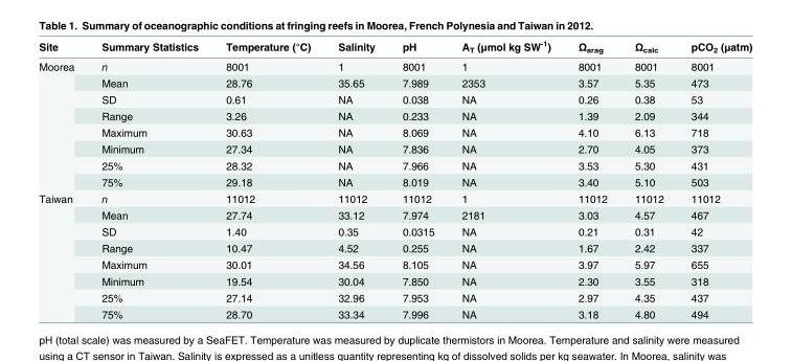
<table><thead><tr><td>Site</td><td>Summary Statistics</td><td>Temperature (°C)</td><td>Salinity</td><td>pH</td><td>A<sub>T</sub> (μmol kg SW<sup>-1</sup>)</td><td>Ω<sub>arag</sub></td><td>Ω<sub>calc</sub></td><td>pCO<sub>2</sub> (μatm)</td></tr></thead><tbody><tr><td rowspan="8">Moorea</td><td>n</td><td>8001</td><td>1</td><td>8001</td><td>1</td><td>8001</td><td>8001</td><td>8001</td></tr><tr><td>Mean</td><td>28.76</td><td>35.65</td><td>7.989</td><td>2353</td><td>3.57</td><td>5.35</td><td>473</td></tr><tr><td>SD</td><td>0.61</td><td>NA</td><td>0.038</td><td>NA</td><td>0.26</td><td>0.38</td><td>53</td></tr><tr><td>Range</td><td>3.26</td><td>NA</td><td>0.233</td><td>NA</td><td>1.39</td><td>2.09</td><td>344</td></tr><tr><td>Maximum</td><td>30.63</td><td>NA</td><td>8.069</td><td>NA</td><td>4.10</td><td>6.13</td><td>718</td></tr><tr><td>Minimum</td><td>27.34</td><td>NA</td><td>7.836</td><td>NA</td><td>2.70</td><td>4.05</td><td>373</td></tr><tr><td>25%</td><td>28.32</td><td>NA</td><td>7.966</td><td>NA</td><td>3.53</td><td>5.30</td><td>431</td></tr><tr><td>75%</td><td>29.18</td><td>NA</td><td>8.019</td><td>NA</td><td>3.40</td><td>5.10</td><td>503</td></tr><tr><td rowspan="8">Taiwan</td><td>n</td><td>11012</td><td>11012</td><td>11012</td><td>1</td><td>11012</td><td>11012</td><td>11012</td></tr><tr><td>Mean</td><td>27.74</td><td>33.12</td><td>7.974</td><td>2181</td><td>3.03</td><td>4.57</td><td>467</td></tr><tr><td>SD</td><td>1.40</td><td>0.35</td><td>0.0315</td><td>NA</td><td>0.21</td><td>0.31</td><td>42</td></tr><tr><td>Range</td><td>10.47</td><td>4.52</td><td>0.255</td><td>NA</td><td>1.67</td><td>2.42</td><td>337</td></tr><tr><td>Maximum</td><td>30.01</td><td>34.56</td><td>8.105</td><td>NA</td><td>3.97</td><td>5.97</td><td>655</td></tr><tr><td>Minimum</td><td>19.54</td><td>30.04</td><td>7.850</td><td>NA</td><td>2.30</td><td>3.55</td><td>318</td></tr><tr><td>25%</td><td>27.14</td><td>32.96</td><td>7.953</td><td>NA</td><td>2.97</td><td>4.35</td><td>437</td></tr><tr><td>75%</td><td>28.70</td><td>33.34</td><td>7.996</td><td>NA</td><td>3.18</td><td>4.80</td><td>494</td></tr></tbody></table>